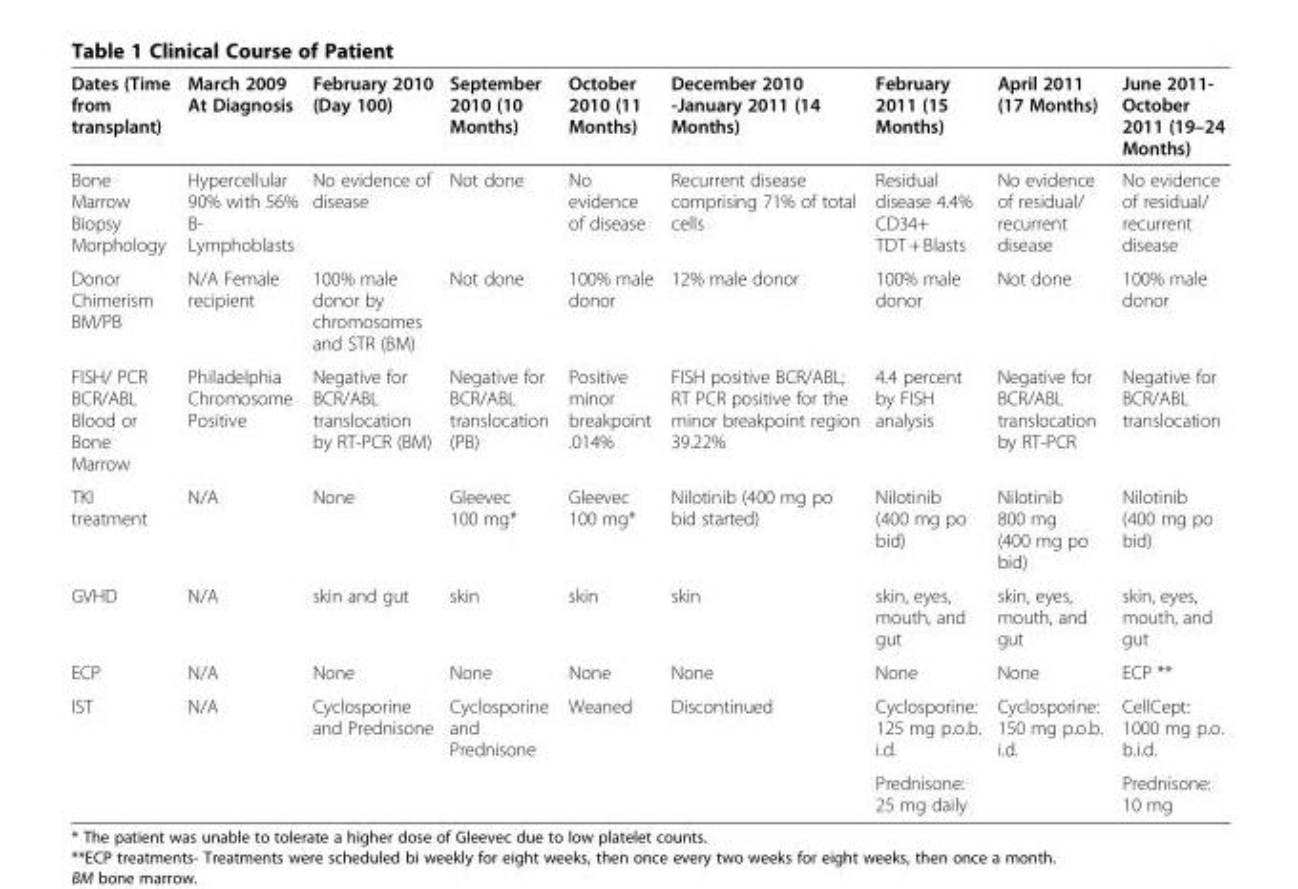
<table><thead><tr><td>Dates (Time from transplant)</td><td>March 2009 At Diagnosis</td><td>February 2010 (Day 100)</td><td>September 2010 (10 Months)</td><td>October 2010 (11 Months)</td><td>December 2010 -January 2011 (14 Months)</td><td>February 2011 (15 Months)</td><td>April 2011 (17 Months)</td><td>June 2011- October 2011 (19–24 Months)</td></tr></thead><tbody><tr><td>Bone Marrow Biopsy Morphology</td><td>Hypercellular 90% with 56% B- Lymphoblasts</td><td>No evidence of disease</td><td>Not done</td><td>No evidence of disease</td><td>Recurrent disease comprising 71% of total cells</td><td>Residual disease 4.4% CD34+ TDT + Blasts</td><td>No evidence of residual/ recurrent disease</td><td>No evidence of residual/ recurrent disease</td></tr><tr><td>Donor Chimerism BM/PB</td><td>N/A Female recipient</td><td>100% male donor by chromosomes and STR (BM)</td><td>Not done</td><td>100% male donor</td><td>12% male donor</td><td>100% male donor</td><td>Not done</td><td>100% male donor</td></tr><tr><td>FISH/ PCR BCR/ABL Blood or Bone Marrow</td><td>Philadelphia Chromosome Positive</td><td>Negative for BCR/ABL translocation by RT-PCR (BM)</td><td>Negative for BCR/ABL translocation (PB)</td><td>Positive minor breakpoint .014%</td><td>FISH positive BCR/ABL; RT PCR positive for the minor breakpoint region 39.22%</td><td>4.4 percent by FISH analysis</td><td>Negative for BCR/ABL translocation by RT-PCR</td><td>Negative for BCR/ABL translocation</td></tr><tr><td>TKI treatment</td><td>N/A</td><td>None</td><td>Gleevec 100 mg*</td><td>Gleevec 100 mg*</td><td>Nilotinib (400 mg po bid started)</td><td>Nilotinib (400 mg po bid)</td><td>Nilotinib 800 mg (400 mg po bid)</td><td>Nilotinib (400 mg po bid)</td></tr><tr><td>GVHD</td><td>N/A</td><td>skin and gut</td><td>skin</td><td>skin</td><td>skin</td><td>skin, eyes, mouth, and gut</td><td>skin, eyes, mouth, and gut</td><td>skin, eyes, mouth, and gut</td></tr><tr><td>ECP</td><td>N/A</td><td>None</td><td>None</td><td>None</td><td>None</td><td>None</td><td>None</td><td>ECP **</td></tr><tr><td rowspan="2">IST</td><td>N/A</td><td>Cyclosporine and Prednisone</td><td>Cyclosporine and Prednisone</td><td>Weaned</td><td>Discontinued</td><td>Cyclosporine: 125 mg p.o.b. i.d.</td><td>Cyclosporine: 150 mg p.o.b. i.d.</td><td>CellCept: 1000 mg p.o. b.i.d.</td></tr><tr><td></td><td></td><td></td><td></td><td></td><td>Prednisone: 25 mg daily</td><td></td><td>Prednisone: 10 mg</td></tr></tbody></table>